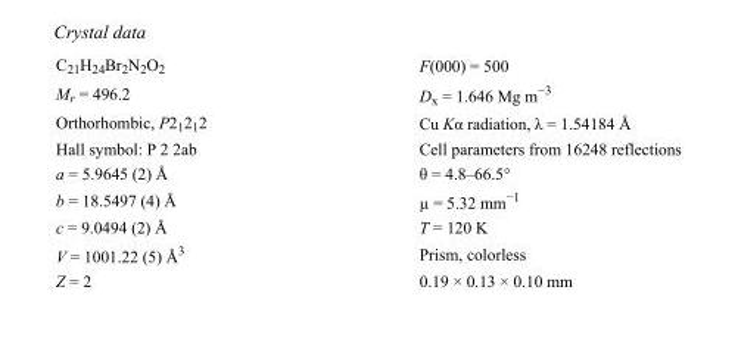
<table><tbody><tr><td>C<sub>21</sub>H<sub>24</sub>Br<sub>2</sub>N<sub>2</sub>O<sub>2</sub></td><td>F(000) = 500</td></tr><tr><td>M<sub>r</sub> = 496.2</td><td>D<sub>x</sub> = 1.646 Mg m<sup>−3</sup></td></tr><tr><td>Orthorhombic, P2<sub>1</sub>2<sub>1</sub>2</td><td>Cu Kα radiation, λ = 1.54184 Å</td></tr><tr><td>Hall symbol: P 2 2ab</td><td>Cell parameters from 16248 reflections</td></tr><tr><td>a = 5.9645 (2) Å</td><td>θ = 4.8–66.5°</td></tr><tr><td>b = 18.5497 (4) Å</td><td>µ = 5.32 mm<sup>−1</sup></td></tr><tr><td>c = 9.0494 (2) Å</td><td>T = 120 K</td></tr><tr><td>V = 1001.22 (5) Å<sup>3</sup></td><td>Prism, colorless</td></tr><tr><td>Z = 2</td><td>0.19 × 0.13 × 0.10 mm</td></tr></tbody></table>